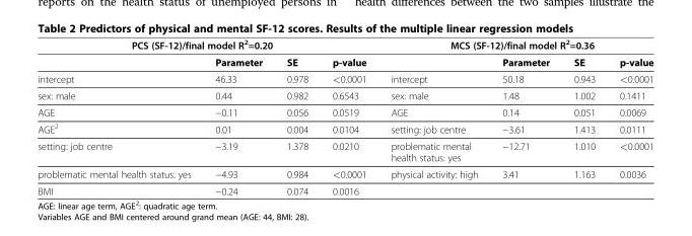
<table><thead><tr><td colspan="4">PCS (SF-12)/final model R<sup>2</sup>=0.20</td><td colspan="4">MCS (SF-12)/final model R<sup>2</sup>=0.36</td></tr><tr><td></td><td>Parameter</td><td>SE</td><td>p-value</td><td></td><td>Parameter</td><td>SE</td><td>p-value</td></tr></thead><tbody><tr><td>intercept</td><td>46.33</td><td>0.978</td><td>&lt;0.0001</td><td>intercept</td><td>50.18</td><td>0.943</td><td>&lt;0.0001</td></tr><tr><td>sex: male</td><td>0.44</td><td>0.982</td><td>0.6543</td><td>sex: male</td><td>1.48</td><td>1.002</td><td>0.1411</td></tr><tr><td>AGE</td><td>−0.11</td><td>0.056</td><td>0.0519</td><td>AGE</td><td>0.14</td><td>0.051</td><td>0.0069</td></tr><tr><td>AGE<sup>2</sup></td><td>0.01</td><td>0.004</td><td>0.0104</td><td>setting: job centre</td><td>−3.61</td><td>1.413</td><td>0.0111</td></tr><tr><td>setting: job centre</td><td>−3.19</td><td>1.378</td><td>0.0210</td><td>problematic mental health status: yes</td><td>−12.71</td><td>1.010</td><td>&lt;0.0001</td></tr><tr><td>problematic mental health status: yes</td><td>−4.93</td><td>0.984</td><td>&lt;0.0001</td><td>physical activity: high</td><td>3.41</td><td>1.163</td><td>0.0036</td></tr><tr><td>BMI</td><td>−0.24</td><td>0.074</td><td>0.0016</td><td></td><td></td><td></td><td></td></tr></tbody></table>